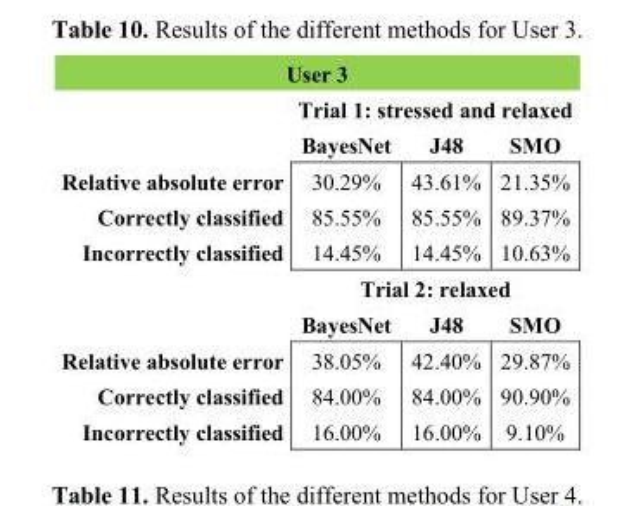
<table><thead><tr><td colspan="4">User 3</td></tr><tr><td rowspan="2"></td><td colspan="3">Trial 1: stressed and relaxed</td></tr><tr><td>BayesNet</td><td>J48</td><td>SMO</td></tr></thead><tbody><tr><td>Relative absolute error</td><td>30.29%</td><td>43.61%</td><td>21.35%</td></tr><tr><td>Correctly classified</td><td>85.55%</td><td>85.55%</td><td>89.37%</td></tr><tr><td rowspan="3">Incorrectly classified</td><td>14.45%</td><td>14.45%</td><td>10.63%</td></tr><tr><td colspan="3">Trial 2: relaxed</td></tr><tr><td>BayesNet</td><td>J48</td><td>SMO</td></tr><tr><td>Relative absolute error</td><td>38.05%</td><td>42.40%</td><td>29.87%</td></tr><tr><td>Correctly classified</td><td>84.00%</td><td>84.00%</td><td>90.90%</td></tr><tr><td>Incorrectly classified</td><td>16.00%</td><td>16.00%</td><td>9.10%</td></tr></tbody></table>